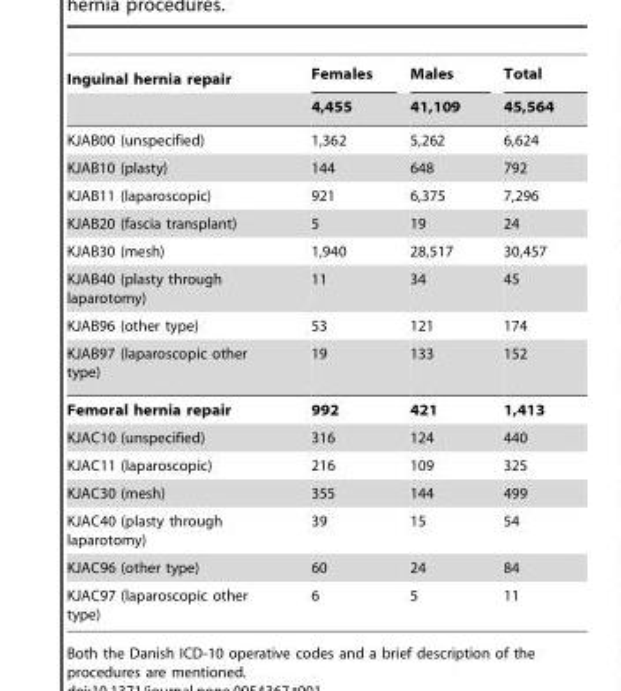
<table><thead><tr><td rowspan="2">Inguinal hernia repair</td><td rowspan="2">Females 4,455</td><td rowspan="2">Males 41,109</td><td rowspan="2">Total 45,564</td></tr><tr></tr></thead><tbody><tr><td>KJAB00 (unspecified)</td><td>1,362</td><td>5,262</td><td>6,624</td></tr><tr><td>KJAB10 (plasty)</td><td>144</td><td>648</td><td>792</td></tr><tr><td>KJAB11 (laparoscopic)</td><td>921</td><td>6,375</td><td>7,296</td></tr><tr><td>KJAB20 (fascia transplant)</td><td>5</td><td>19</td><td>24</td></tr><tr><td>KJAB30 (mesh)</td><td>1,940</td><td>28,517</td><td>30,457</td></tr><tr><td>KJAB40 (plasty through laparotomy)</td><td>11</td><td>34</td><td>45</td></tr><tr><td>KJAB96 (other type)</td><td>53</td><td>121</td><td>174</td></tr><tr><td>KJAB97 (laparoscopic other type)</td><td>19</td><td>133</td><td>152</td></tr><tr><td>Femoral hernia repair</td><td>992</td><td>421</td><td>1,413</td></tr><tr><td>KJAC10 (unspecified)</td><td>316</td><td>124</td><td>440</td></tr><tr><td>KJAC11 (laparoscopic)</td><td>216</td><td>109</td><td>325</td></tr><tr><td>KJAC30 (mesh)</td><td>355</td><td>144</td><td>499</td></tr><tr><td>KJAC40 (plasty through laparotomy)</td><td>39</td><td>15</td><td>54</td></tr><tr><td>KJAC96 (other type)</td><td>60</td><td>24</td><td>84</td></tr><tr><td>KJAC97 (laparoscopic other type)</td><td>6</td><td>5</td><td>11</td></tr></tbody></table>